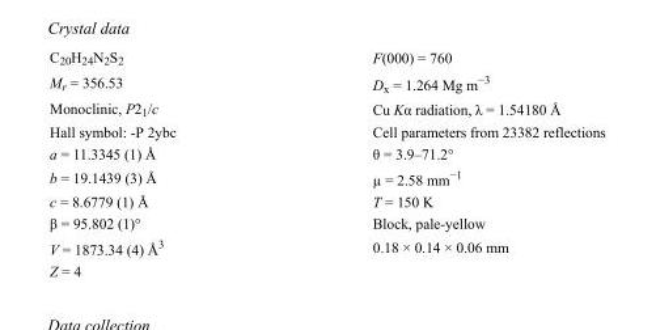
<table><tbody><tr><td>C<sub>20</sub>H<sub>24</sub>N<sub>2</sub>S<sub>2</sub></td><td>F(000) = 760</td></tr><tr><td>M<sub>r</sub> = 356.53</td><td>D<sub>x</sub> = 1.264 Mg m<sup>−3</sup></td></tr><tr><td>Monoclinic, P2<sub>1</sub>/c</td><td>Cu Kα radiation, λ = 1.54180 Å</td></tr><tr><td>Hall symbol: -P 2ybc</td><td>Cell parameters from 23382 reflections</td></tr><tr><td>a = 11.3345 (1) Å</td><td>θ = 3.9–71.2°</td></tr><tr><td>b = 19.1439 (3) Å</td><td>µ = 2.58 mm<sup>−1</sup></td></tr><tr><td>c = 8.6779 (1) Å</td><td>T = 150 K</td></tr><tr><td>β = 95.802 (1)°</td><td>Block, pale-yellow</td></tr><tr><td>V = 1873.34 (4) Å<sup>3</sup></td><td>0.18 × 0.14 × 0.06 mm</td></tr><tr><td>Z = 4</td><td></td></tr></tbody></table>